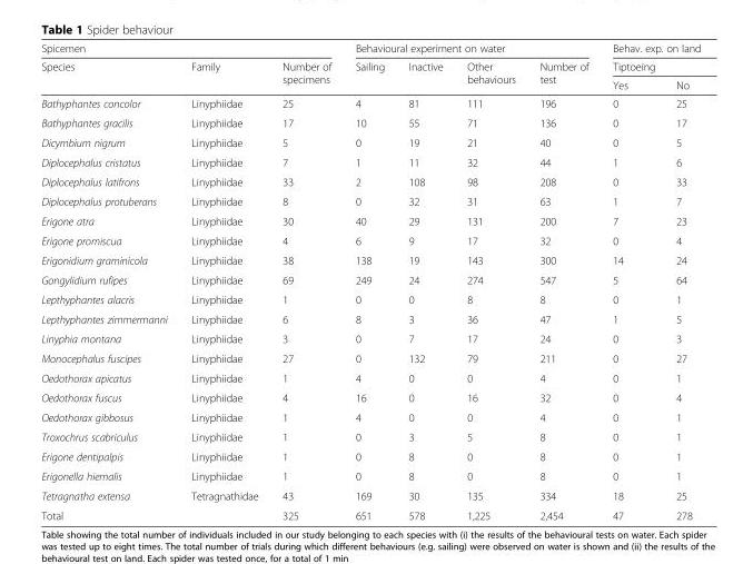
<table><thead><tr><td colspan="3">Spicemen</td><td colspan="4">Behavioural experiment on water</td><td rowspan="2" colspan="2">Behav. exp. on land Tiptoeing</td></tr><tr><td rowspan="2">Species</td><td rowspan="2">Family</td><td rowspan="2">Number of specimens</td><td rowspan="2">Sailing</td><td rowspan="2">Inactive</td><td rowspan="2">Other behaviours</td><td rowspan="2">Number of test</td></tr><tr><td>Yes</td><td>No</td></tr></thead><tbody><tr><td>Bathyphantes concolor</td><td>Linyphiidae</td><td>25</td><td>4</td><td>81</td><td>111</td><td>196</td><td>0</td><td>25</td></tr><tr><td>Bathyphantes gracilis</td><td>Linyphiidae</td><td>17</td><td>10</td><td>55</td><td>71</td><td>136</td><td>0</td><td>17</td></tr><tr><td>Dicymbium nigrum</td><td>Linyphiidae</td><td>5</td><td>0</td><td>19</td><td>21</td><td>40</td><td>0</td><td>5</td></tr><tr><td>Diplocephalus cristatus</td><td>Linyphiidae</td><td>7</td><td>1</td><td>11</td><td>32</td><td>44</td><td>1</td><td>6</td></tr><tr><td>Diplocephalus latifrons</td><td>Linyphiidae</td><td>33</td><td>2</td><td>108</td><td>98</td><td>208</td><td>0</td><td>33</td></tr><tr><td>Diplocephalus protuberans</td><td>Linyphiidae</td><td>8</td><td>0</td><td>32</td><td>31</td><td>63</td><td>1</td><td>7</td></tr><tr><td>Erigone atra</td><td>Linyphiidae</td><td>30</td><td>40</td><td>29</td><td>131</td><td>200</td><td>7</td><td>23</td></tr><tr><td>Erigone promiscua</td><td>Linyphiidae</td><td>4</td><td>6</td><td>9</td><td>17</td><td>32</td><td>0</td><td>4</td></tr><tr><td>Erigonidium graminicola</td><td>Linyphiidae</td><td>38</td><td>138</td><td>19</td><td>143</td><td>300</td><td>14</td><td>24</td></tr><tr><td>Gongylidium rufipes</td><td>Linyphiidae</td><td>69</td><td>249</td><td>24</td><td>274</td><td>547</td><td>5</td><td>64</td></tr><tr><td>Lepthyphantes alacris</td><td>Linyphiidae</td><td>1</td><td>0</td><td>0</td><td>8</td><td>8</td><td>0</td><td>1</td></tr><tr><td>Lepthyphantes zimmermanni</td><td>Linyphiidae</td><td>6</td><td>8</td><td>3</td><td>36</td><td>47</td><td>1</td><td>5</td></tr><tr><td>Linyphia montana</td><td>Linyphiidae</td><td>3</td><td>0</td><td>7</td><td>17</td><td>24</td><td>0</td><td>3</td></tr><tr><td>Monocephalus fuscipes</td><td>Linyphiidae</td><td>27</td><td>0</td><td>132</td><td>79</td><td>211</td><td>0</td><td>27</td></tr><tr><td>Oedothorax apicatus</td><td>Linyphiidae</td><td>1</td><td>4</td><td>0</td><td>0</td><td>4</td><td>0</td><td>1</td></tr><tr><td>Oedothorax fuscus</td><td>Linyphiidae</td><td>4</td><td>16</td><td>0</td><td>16</td><td>32</td><td>0</td><td>4</td></tr><tr><td>Oedothorax gibbosus</td><td>Linyphiidae</td><td>1</td><td>4</td><td>0</td><td>0</td><td>4</td><td>0</td><td>1</td></tr><tr><td>Troxochrus scabriculus</td><td>Linyphiidae</td><td>1</td><td>0</td><td>3</td><td>5</td><td>8</td><td>0</td><td>1</td></tr><tr><td>Erigone dentipalpis</td><td>Linyphiidae</td><td>1</td><td>0</td><td>8</td><td>0</td><td>8</td><td>0</td><td>1</td></tr><tr><td>Erigonella hiemalis</td><td>Linyphiidae</td><td>1</td><td>0</td><td>8</td><td>0</td><td>8</td><td>0</td><td>1</td></tr><tr><td>Tetragnatha extensa</td><td>Tetragnathidae</td><td>43</td><td>169</td><td>30</td><td>135</td><td>334</td><td>18</td><td>25</td></tr><tr><td colspan="2">Total</td><td>325</td><td>651</td><td>578</td><td>1,225</td><td>2,454</td><td>47</td><td>278</td></tr></tbody></table>